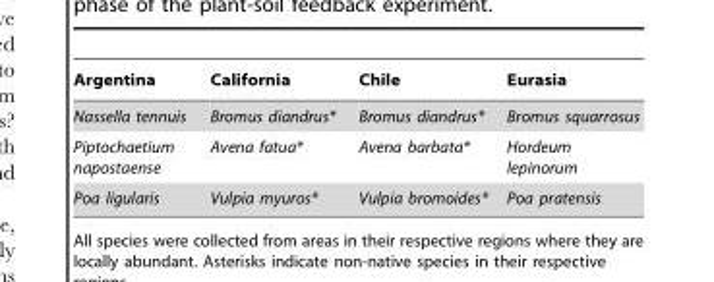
<table><thead><tr><td>Argentina</td><td>California</td><td>Chile</td><td>Eurasia</td></tr></thead><tbody><tr><td>Nassella tennuis</td><td>Bromus diandrus*</td><td>Bromus diandrus*</td><td>Bromus squarrosus</td></tr><tr><td>Piptochaetium napostaense</td><td>Avena fatua*</td><td>Avena barbata*</td><td>Hordeum lepinorum</td></tr><tr><td>Poa ligularis</td><td>Vulpia myuros*</td><td>Vulpia bromoides*</td><td>Poa pratensis</td></tr></tbody></table>